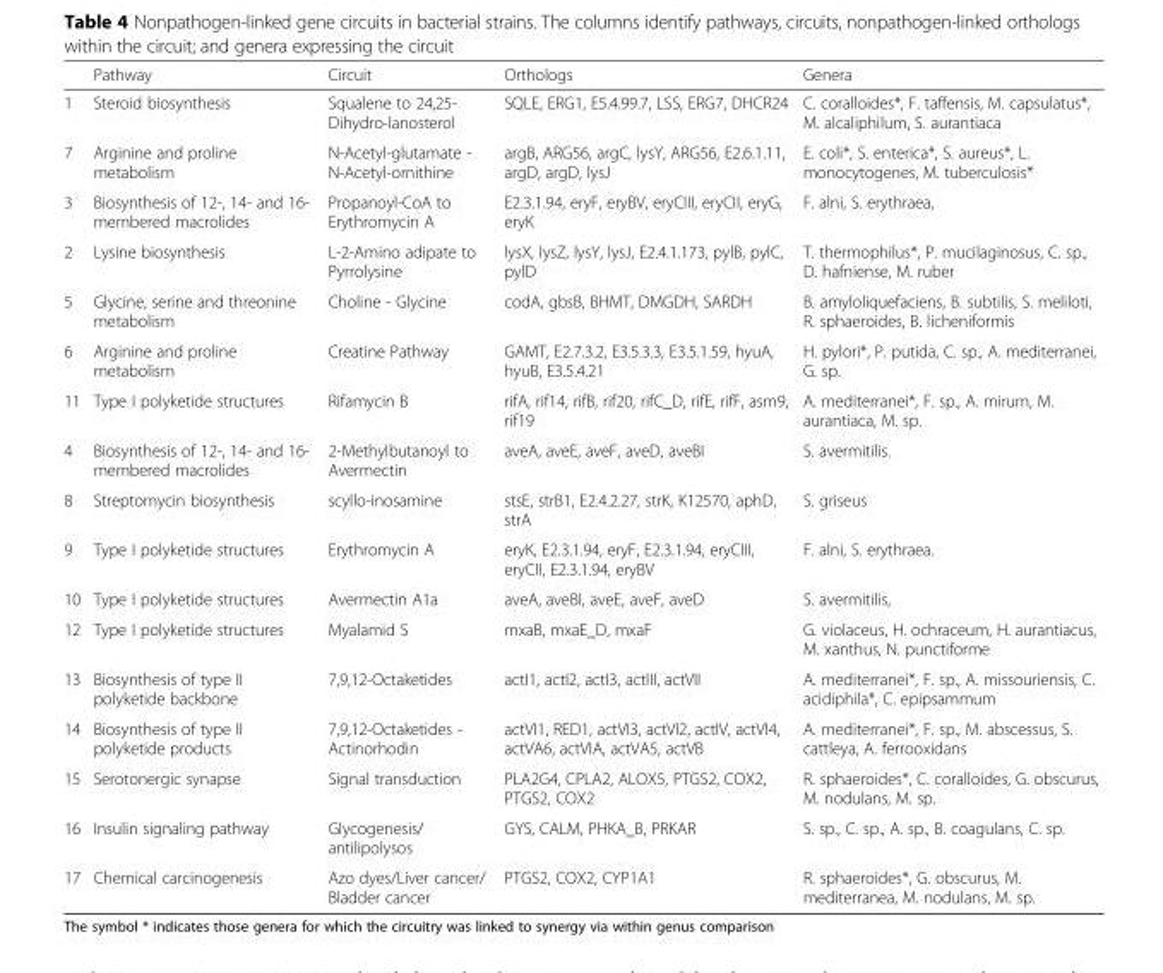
<table><thead><tr><td></td><td>Pathway</td><td>Circuit</td><td>Orthologs</td><td>Genera</td></tr></thead><tbody><tr><td>1</td><td>Steroid biosynthesis</td><td>Squalene to 24,25- Dihydro-lanosterol</td><td>SQLE, ERG1, E5.4.99.7, LSS, ERG7, DHCR24</td><td>C. coralloides*, F. taffensis, M. capsulatus*, M. alcaliphilum, S. aurantiaca</td></tr><tr><td>7</td><td>Arginine and proline metabolism</td><td>N-Acetyl-glutamate - N-Acetyl-ornithine</td><td>argB, ARG56, argC, lysY, ARG56, E2.6.1.11, argD, argD, lysJ</td><td>E. coli*, S. enterica*, S. aureus*, L. monocytogenes, M. tuberculosis*</td></tr><tr><td>3</td><td>Biosynthesis of 12-, 14- and 16- membered macrolides</td><td>Propanoyl-CoA to Erythromycin A</td><td>E2.3.1.94, eryF, eryBV, eryCIII, eryCII, eryG, eryK</td><td>F. alni, S. erythraea,</td></tr><tr><td>2</td><td>Lysine biosynthesis</td><td>L-2-Amino adipate to Pyrrolysine</td><td>lysX, lysZ, lysY, lysJ, E2.4.1.173, pylB, pylC, pylD</td><td>T. thermophilus*, P. mucilaginosus, C. sp., D. hafniense, M. ruber</td></tr><tr><td>5</td><td>Glycine, serine and threonine metabolism</td><td>Choline - Glycine</td><td>codA, gbsB, BHMT, DMGDH, SARDH</td><td>B. amyloliquefaciens, B. subtilis, S. meliloti, R. sphaeroides, B. licheniformis</td></tr><tr><td>6</td><td>Arginine and proline metabolism</td><td>Creatine Pathway</td><td>GAMT, E2.7.3.2, E3.5.3.3, E3.5.1.59, hyuA, hyuB, E3.5.4.21</td><td>H. pylori*, P. putida, C. sp., A. mediterranei, G. sp.</td></tr><tr><td>11</td><td>Type I polyketide structures</td><td>Rifamycin B</td><td>rifA, rif14, rifB, rif20, rifC_D, rifE, rifF, asm9, rif19</td><td>A. mediterranei*, F. sp., A. mirum, M. aurantiaca, M. sp.</td></tr><tr><td>4</td><td>Biosynthesis of 12-, 14- and 16- membered macrolides</td><td>2-Methylbutanoyl to Avermectin</td><td>aveA, aveE, aveF, aveD, aveBI</td><td>S. avermitilis.</td></tr><tr><td>8</td><td>Streptomycin biosynthesis</td><td>scyllo-inosamine</td><td>stsE, strB1, E2.4.2.27, strK, K12570, aphD, strA</td><td>S. griseus</td></tr><tr><td>9</td><td>Type I polyketide structures</td><td>Erythromycin A</td><td>eryK, E2.3.1.94, eryF, E2.3.1.94, eryCIII, eryCII, E2.3.1.94, eryBV</td><td>F. alni, S. erythraea.</td></tr><tr><td>10</td><td>Type I polyketide structures</td><td>Avermectin A1a</td><td>aveA, aveBI, aveE, aveF, aveD</td><td>S. avermitilis,</td></tr><tr><td>12</td><td>Type I polyketide structures</td><td>Myalamid S</td><td>mxaB, mxaE_D, mxaF</td><td>G. violaceus, H. ochraceum, H. aurantiacus, M. xanthus, N. punctiforme</td></tr><tr><td>13</td><td>Biosynthesis of type II polyketide backbone</td><td>7,9,12-Octaketides</td><td>actI1, actI2, actI3, actIII, actVII</td><td>A. mediterranei*, F. sp., A. missouriensis, C. acidiphila*, C. epipsammum</td></tr><tr><td>14</td><td>Biosynthesis of type II polyketide products</td><td>7,9,12-Octaketides - Actinorhodin</td><td>actVI1, RED1, actVI3, actVI2, actIV, actVI4, actVA6, actVIA, actVA5, actVB</td><td>A. mediterranei*, F. sp., M. abscessus, S. cattleya, A. ferrooxidans</td></tr><tr><td>15</td><td>Serotonergic synapse</td><td>Signal transduction</td><td>PLA2G4, CPLA2, ALOX5, PTGS2, COX2, PTGS2, COX2</td><td>R. sphaeroides*, C. coralloides, G. obscurus, M. nodulans, M. sp.</td></tr><tr><td>16</td><td>Insulin signaling pathway</td><td>Glycogenesis/ antilipolysos</td><td>GYS, CALM, PHKA_B, PRKAR</td><td>S. sp., C. sp., A. sp., B. coagulans, C. sp.</td></tr><tr><td>17</td><td>Chemical carcinogenesis</td><td>Azo dyes/Liver cancer/ Bladder cancer</td><td>PTGS2, COX2, CYP1A1</td><td>R. sphaeroides*, G. obscurus, M. mediterranea, M. nodulans, M. sp.</td></tr></tbody></table>